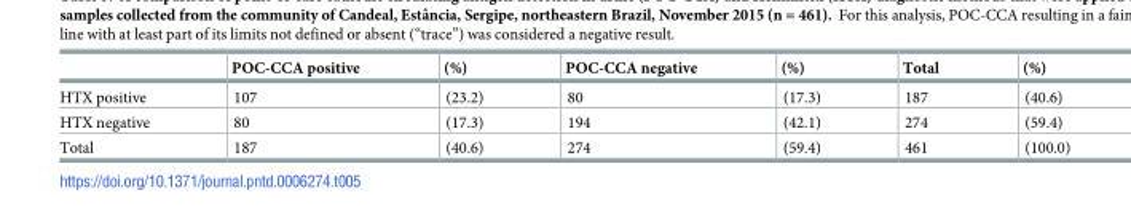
<table><thead><tr><td></td><td>POC-CCA positive</td><td>(%)</td><td>POC-CCA negative</td><td>(%)</td><td>Total</td><td>(%)</td></tr></thead><tbody><tr><td>HTX positive</td><td>107</td><td>(23.2)</td><td>80</td><td>(17.3)</td><td>187</td><td>(40.6)</td></tr><tr><td>HTX negative</td><td>80</td><td>(17.3)</td><td>194</td><td>(42.1)</td><td>274</td><td>(59.4)</td></tr><tr><td>Total</td><td>187</td><td>(40.6)</td><td>274</td><td>(59.4)</td><td>461</td><td>(100.0)</td></tr></tbody></table>